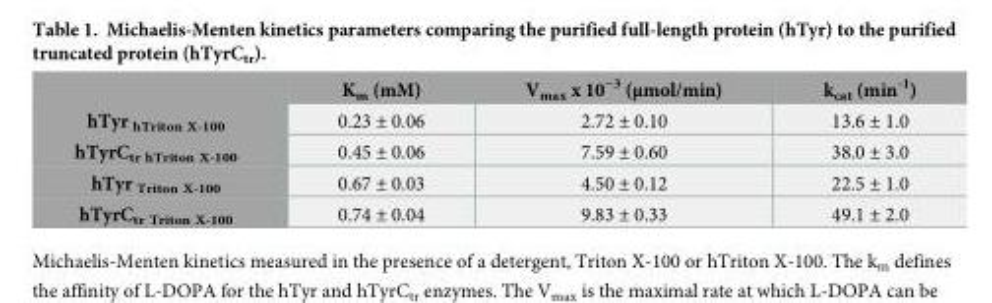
<table><thead><tr><td></td><td>K<sub>m</sub> (mM)</td><td>V<sub>max</sub> x 10<sup>−3</sup> (μmol/min)</td><td>k<sub>cat</sub> (min<sup>-1</sup>)</td></tr></thead><tbody><tr><td>hTyr <sub>hTriton X-100</sub></td><td>0.23 ± 0.06</td><td>2.72 ± 0.10</td><td>13.6 ± 1.0</td></tr><tr><td>hTyrC<sub>tr hTriton X-100</sub></td><td>0.45 ± 0.06</td><td>7.59 ± 0.60</td><td>38.0 ± 3.0</td></tr><tr><td>hTyr <sub>Triton X-100</sub></td><td>0.67 ± 0.03</td><td>4.50 ± 0.12</td><td>22.5 ± 1.0</td></tr><tr><td>hTyrC<sub>tr Triton X-100</sub></td><td>0.74 ± 0.04</td><td>9.83 ± 0.33</td><td>49.1 ± 2.0</td></tr></tbody></table>